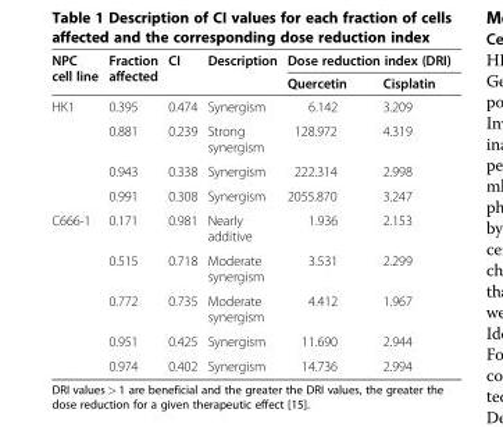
<table><thead><tr><td rowspan="2">NPC cell line</td><td rowspan="2">Fraction affected</td><td rowspan="2">CI</td><td rowspan="2">Description</td><td colspan="2">Dose reduction index (DRI)</td></tr><tr><td>Quercetin</td><td>Cisplatin</td></tr></thead><tbody><tr><td rowspan="4">HK1</td><td>0.395</td><td>0.474</td><td>Synergism</td><td>6.142</td><td>3.209</td></tr><tr><td>0.881</td><td>0.239</td><td>Strong synergism</td><td>128.972</td><td>4.319</td></tr><tr><td>0.943</td><td>0.338</td><td>Synergism</td><td>222.314</td><td>2.998</td></tr><tr><td>0.991</td><td>0.308</td><td>Synergism</td><td>2055.870</td><td>3.247</td></tr><tr><td rowspan="5">C666-1</td><td>0.171</td><td>0.981</td><td>Nearly additive</td><td>1.936</td><td>2.153</td></tr><tr><td>0.515</td><td>0.718</td><td>Moderate synergism</td><td>3.531</td><td>2.299</td></tr><tr><td>0.772</td><td>0.735</td><td>Moderate synergism</td><td>4.412</td><td>1.967</td></tr><tr><td>0.951</td><td>0.425</td><td>Synergism</td><td>11.690</td><td>2.944</td></tr><tr><td>0.974</td><td>0.402</td><td>Synergism</td><td>14.736</td><td>2.994</td></tr></tbody></table>